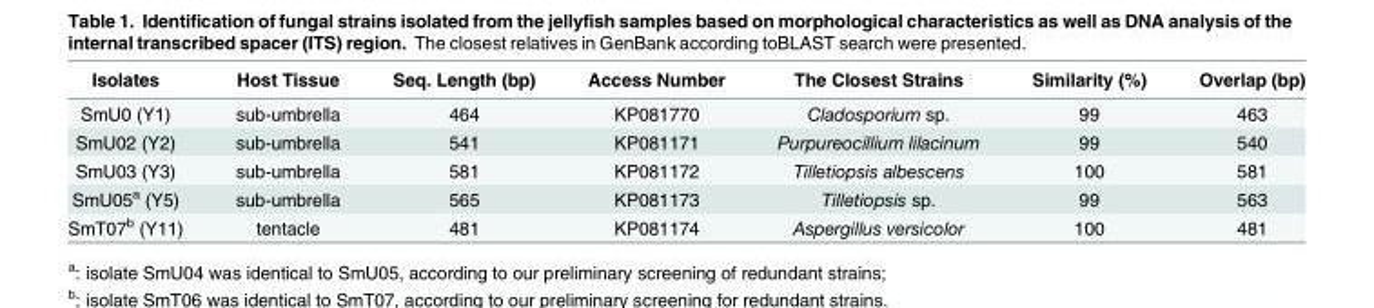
<table><thead><tr><td>Isolates</td><td>Host Tissue</td><td>Seq. Length (bp)</td><td>Access Number</td><td>The Closest Strains</td><td>Similarity (%)</td><td>Overlap (bp)</td></tr></thead><tbody><tr><td>SmU0 (Y1)</td><td>sub-umbrella</td><td>464</td><td>KP081770</td><td>Cladosporium sp.</td><td>99</td><td>463</td></tr><tr><td>SmU02 (Y2)</td><td>sub-umbrella</td><td>541</td><td>KP081171</td><td>Purpureocillium lilacinum</td><td>99</td><td>540</td></tr><tr><td>SmU03 (Y3)</td><td>sub-umbrella</td><td>581</td><td>KP081172</td><td>Tilletiopsis albescens</td><td>100</td><td>581</td></tr><tr><td>SmU05<sup>a</sup> (Y5)</td><td>sub-umbrella</td><td>565</td><td>KP081173</td><td>Tilletiopsis sp.</td><td>99</td><td>563</td></tr><tr><td>SmT07<sup>b</sup> (Y11)</td><td>tentacle</td><td>481</td><td>KP081174</td><td>Aspergillus versicolor</td><td>100</td><td>481</td></tr></tbody></table>